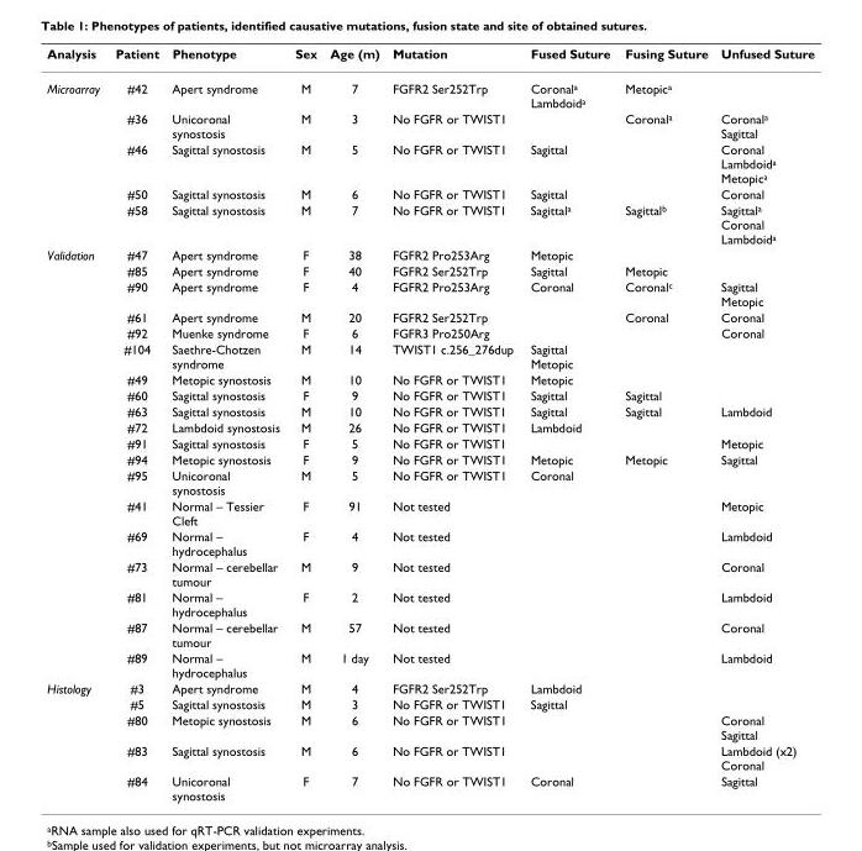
<table><thead><tr><td>Analysis</td><td>Patient</td><td>Phenotype</td><td>Sex</td><td>Age (m)</td><td>Mutation</td><td>Fused Suture</td><td>Fusing Suture</td><td>Unfused Suture</td></tr></thead><tbody><tr><td rowspan="5">Microarray</td><td>#42</td><td>Apert syndrome</td><td>M</td><td>7</td><td>FGFR2 Ser252Trp</td><td>Coronal<sup>a</sup> Lambdoid<sup>a</sup></td><td>Metopic<sup>a</sup></td><td></td></tr><tr><td>#36</td><td>Unicoronal synostosis</td><td>M</td><td>3</td><td>No FGFR or TWIST1</td><td></td><td>Coronal<sup>a</sup></td><td>Coronal<sup>a</sup> Sagittal</td></tr><tr><td>#46</td><td>Sagittal synostosis</td><td>M</td><td>5</td><td>No FGFR or TWIST1</td><td>Sagittal</td><td></td><td>Coronal Lambdoid<sup>a</sup> Metopic<sup>a</sup></td></tr><tr><td>#50</td><td>Sagittal synostosis</td><td>M</td><td>6</td><td>No FGFR or TWIST1</td><td>Sagittal</td><td></td><td>Coronal</td></tr><tr><td>#58</td><td>Sagittal synostosis</td><td>M</td><td>7</td><td>No FGFR or TWIST1</td><td>Sagittal<sup>a</sup></td><td>Sagittal<sup>b</sup></td><td>Sagittal<sup>a</sup> Coronal Lambdoid<sup>a</sup></td></tr><tr><td rowspan="19">Validation</td><td>#47</td><td>Apert syndrome</td><td>F</td><td>38</td><td>FGFR2 Pro253Arg</td><td>Metopic</td><td></td><td></td></tr><tr><td>#85</td><td>Apert syndrome</td><td>F</td><td>40</td><td>FGFR2 Ser252Trp</td><td>Sagittal</td><td>Metopic</td><td></td></tr><tr><td>#90</td><td>Apert syndrome</td><td>F</td><td>4</td><td>FGFR2 Pro253Arg</td><td>Coronal</td><td>Coronal<sup>c</sup></td><td>Sagittal Metopic</td></tr><tr><td>#61</td><td>Apert syndrome</td><td>M</td><td>20</td><td>FGFR2 Ser252Trp</td><td></td><td>Coronal</td><td>Coronal</td></tr><tr><td>#92</td><td>Muenke syndrome</td><td>F</td><td>6</td><td>FGFR3 Pro250Arg</td><td></td><td></td><td>Coronal</td></tr><tr><td>#104</td><td>Saethre-Chotzen syndrome</td><td>M</td><td>14</td><td>TWIST1 c.256_276dup</td><td>Sagittal Metopic</td><td></td><td></td></tr><tr><td>#49</td><td>Metopic synostosis</td><td>M</td><td>10</td><td>No FGFR or TWIST1</td><td>Metopic</td><td></td><td></td></tr><tr><td>#60</td><td>Sagittal synostosis</td><td>F</td><td>9</td><td>No FGFR or TWIST1</td><td>Sagittal</td><td>Sagittal</td><td></td></tr><tr><td>#63</td><td>Sagittal synostosis</td><td>M</td><td>10</td><td>No FGFR or TWIST1</td><td>Sagittal</td><td>Sagittal</td><td>Lambdoid</td></tr><tr><td>#72</td><td>Lambdoid synostosis</td><td>M</td><td>26</td><td>No FGFR or TWIST1</td><td>Lambdoid</td><td></td><td></td></tr><tr><td>#91</td><td>Sagittal synostosis</td><td>F</td><td>5</td><td>No FGFR or TWIST1</td><td></td><td></td><td>Metopic</td></tr><tr><td>#94</td><td>Metopic synostosis</td><td>F</td><td>9</td><td>No FGFR or TWIST1</td><td>Metopic</td><td>Metopic</td><td>Sagittal</td></tr><tr><td>#95</td><td>Unicoronal synostosis</td><td>M</td><td>5</td><td>No FGFR or TWIST1</td><td>Coronal</td><td></td><td></td></tr><tr><td>#41</td><td>Normal – Tessier Cleft</td><td>F</td><td>91</td><td>Not tested</td><td></td><td></td><td>Metopic</td></tr><tr><td>#69</td><td>Normal – hydrocephalus</td><td>F</td><td>4</td><td>Not tested</td><td></td><td></td><td>Lambdoid</td></tr><tr><td>#73</td><td>Normal – cerebellar tumour</td><td>M</td><td>9</td><td>Not tested</td><td></td><td></td><td>Coronal</td></tr><tr><td>#81</td><td>Normal – hydrocephalus</td><td>F</td><td>2</td><td>Not tested</td><td></td><td></td><td>Lambdoid</td></tr><tr><td>#87</td><td>Normal – cerebellar tumour</td><td>M</td><td>57</td><td>Not tested</td><td></td><td></td><td>Coronal</td></tr><tr><td>#89</td><td>Normal – hydrocephalus</td><td>M</td><td>1 day</td><td>Not tested</td><td></td><td></td><td>Lambdoid</td></tr><tr><td rowspan="5">Histology</td><td>#3</td><td>Apert syndrome</td><td>M</td><td>4</td><td>FGFR2 Ser252Trp</td><td>Lambdoid</td><td></td><td></td></tr><tr><td>#5</td><td>Sagittal synostosis</td><td>M</td><td>3</td><td>No FGFR or TWIST1</td><td>Sagittal</td><td></td><td></td></tr><tr><td>#80</td><td>Metopic synostosis</td><td>M</td><td>6</td><td>No FGFR or TWIST1</td><td></td><td></td><td>Coronal Sagittal</td></tr><tr><td>#83</td><td>Sagittal synostosis</td><td>M</td><td>6</td><td>No FGFR or TWIST1</td><td></td><td></td><td>Lambdoid (x2) Coronal</td></tr><tr><td>#84</td><td>Unicoronal synostosis</td><td>F</td><td>7</td><td>No FGFR or TWIST1</td><td>Coronal</td><td></td><td>Sagittal</td></tr></tbody></table>